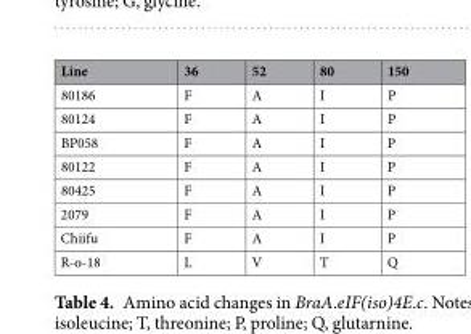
<table><thead><tr><td>Line</td><td>36</td><td>52</td><td>80</td><td>150</td></tr></thead><tbody><tr><td>80186</td><td>F</td><td>A</td><td>I</td><td>P</td></tr><tr><td>80124</td><td>F</td><td>A</td><td>I</td><td>P</td></tr><tr><td>BP058</td><td>F</td><td>A</td><td>I</td><td>P</td></tr><tr><td>80122</td><td>F</td><td>A</td><td>I</td><td>P</td></tr><tr><td>80425</td><td>F</td><td>A</td><td>I</td><td>P</td></tr><tr><td>2079</td><td>F</td><td>A</td><td>I</td><td>P</td></tr><tr><td>Chiifu</td><td>F</td><td>A</td><td>I</td><td>P</td></tr><tr><td>R-o-18</td><td>L</td><td>V</td><td>T</td><td>Q</td></tr></tbody></table>